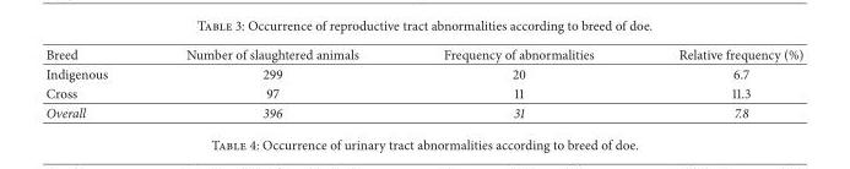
<table><thead><tr><td>Breed</td><td>Number of slaughtered animals</td><td>Frequency of abnormalities</td><td>Relative frequency (%)</td></tr></thead><tbody><tr><td>Indigenous</td><td>299</td><td>20</td><td>6.7</td></tr><tr><td>Cross</td><td>97</td><td>11</td><td>11.3</td></tr><tr><td>Overall</td><td>396</td><td>31</td><td>7.8</td></tr></tbody></table>